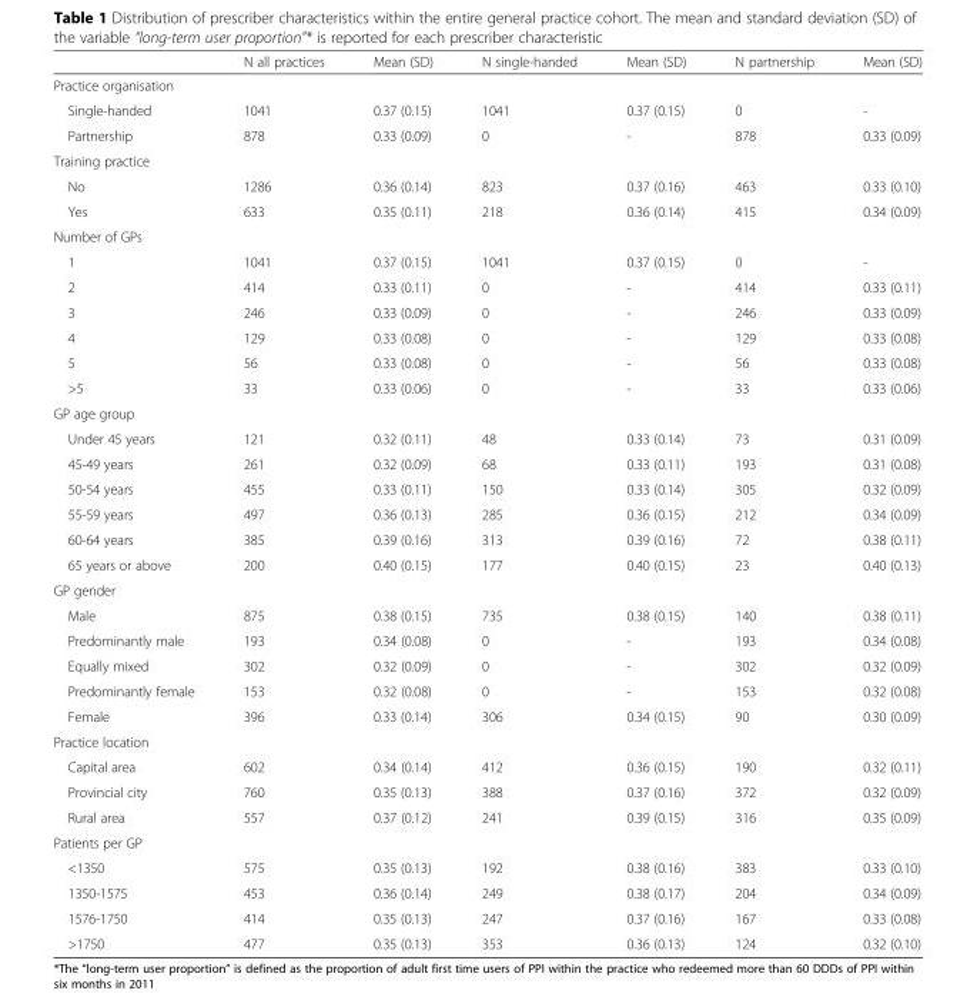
<table><thead><tr><td></td><td>N all practices</td><td>Mean (SD)</td><td>N single-handed</td><td>Mean (SD)</td><td>N partnership</td><td>Mean (SD)</td></tr></thead><tbody><tr><td colspan="7">Practice organisation</td></tr><tr><td>Single-handed</td><td>1041</td><td>0.37 (0.15)</td><td>1041</td><td>0.37 (0.15)</td><td>0</td><td>-</td></tr><tr><td>Partnership</td><td>878</td><td>0.33 (0.09)</td><td>0</td><td>-</td><td>878</td><td>0.33 (0.09)</td></tr><tr><td colspan="7">Training practice</td></tr><tr><td>No</td><td>1286</td><td>0.36 (0.14)</td><td>823</td><td>0.37 (0.16)</td><td>463</td><td>0.33 (0.10)</td></tr><tr><td>Yes</td><td>633</td><td>0.35 (0.11)</td><td>218</td><td>0.36 (0.14)</td><td>415</td><td>0.34 (0.09)</td></tr><tr><td colspan="7">Number of GPs</td></tr><tr><td>1</td><td>1041</td><td>0.37 (0.15)</td><td>1041</td><td>0.37 (0.15)</td><td>0</td><td>-</td></tr><tr><td>2</td><td>414</td><td>0.33 (0.11)</td><td>0</td><td>-</td><td>414</td><td>0.33 (0.11)</td></tr><tr><td>3</td><td>246</td><td>0.33 (0.09)</td><td>0</td><td>-</td><td>246</td><td>0.33 (0.09)</td></tr><tr><td>4</td><td>129</td><td>0.33 (0.08)</td><td>0</td><td>-</td><td>129</td><td>0.33 (0.08)</td></tr><tr><td>5</td><td>56</td><td>0.33 (0.08)</td><td>0</td><td>-</td><td>56</td><td>0.33 (0.08)</td></tr><tr><td>&gt;5</td><td>33</td><td>0.33 (0.06)</td><td>0</td><td>-</td><td>33</td><td>0.33 (0.06)</td></tr><tr><td colspan="7">GP age group</td></tr><tr><td>Under 45 years</td><td>121</td><td>0.32 (0.11)</td><td>48</td><td>0.33 (0.14)</td><td>73</td><td>0.31 (0.09)</td></tr><tr><td>45-49 years</td><td>261</td><td>0.32 (0.09)</td><td>68</td><td>0.33 (0.11)</td><td>193</td><td>0.31 (0.08)</td></tr><tr><td>50-54 years</td><td>455</td><td>0.33 (0.11)</td><td>150</td><td>0.33 (0.14)</td><td>305</td><td>0.32 (0.09)</td></tr><tr><td>55-59 years</td><td>497</td><td>0.36 (0.13)</td><td>285</td><td>0.36 (0.15)</td><td>212</td><td>0.34 (0.09)</td></tr><tr><td>60-64 years</td><td>385</td><td>0.39 (0.16)</td><td>313</td><td>0.39 (0.16)</td><td>72</td><td>0.38 (0.11)</td></tr><tr><td>65 years or above</td><td>200</td><td>0.40 (0.15)</td><td>177</td><td>0.40 (0.15)</td><td>23</td><td>0.40 (0.13)</td></tr><tr><td colspan="7">GP gender</td></tr><tr><td>Male</td><td>875</td><td>0.38 (0.15)</td><td>735</td><td>0.38 (0.15)</td><td>140</td><td>0.38 (0.11)</td></tr><tr><td>Predominantly male</td><td>193</td><td>0.34 (0.08)</td><td>0</td><td>-</td><td>193</td><td>0.34 (0.08)</td></tr><tr><td>Equally mixed</td><td>302</td><td>0.32 (0.09)</td><td>0</td><td>-</td><td>302</td><td>0.32 (0.09)</td></tr><tr><td>Predominantly female</td><td>153</td><td>0.32 (0.08)</td><td>0</td><td>-</td><td>153</td><td>0.32 (0.08)</td></tr><tr><td>Female</td><td>396</td><td>0.33 (0.14)</td><td>306</td><td>0.34 (0.15)</td><td>90</td><td>0.30 (0.09)</td></tr><tr><td colspan="7">Practice location</td></tr><tr><td>Capital area</td><td>602</td><td>0.34 (0.14)</td><td>412</td><td>0.36 (0.15)</td><td>190</td><td>0.32 (0.11)</td></tr><tr><td>Provincial city</td><td>760</td><td>0.35 (0.13)</td><td>388</td><td>0.37 (0.16)</td><td>372</td><td>0.32 (0.09)</td></tr><tr><td>Rural area</td><td>557</td><td>0.37 (0.12)</td><td>241</td><td>0.39 (0.15)</td><td>316</td><td>0.35 (0.09)</td></tr><tr><td colspan="7">Patients per GP</td></tr><tr><td>&lt;1350</td><td>575</td><td>0.35 (0.13)</td><td>192</td><td>0.38 (0.16)</td><td>383</td><td>0.33 (0.10)</td></tr><tr><td>1350-1575</td><td>453</td><td>0.36 (0.14)</td><td>249</td><td>0.38 (0.17)</td><td>204</td><td>0.34 (0.09)</td></tr><tr><td>1576-1750</td><td>414</td><td>0.35 (0.13)</td><td>247</td><td>0.37 (0.16)</td><td>167</td><td>0.33 (0.08)</td></tr><tr><td>&gt;1750</td><td>477</td><td>0.35 (0.13)</td><td>353</td><td>0.36 (0.13)</td><td>124</td><td>0.32 (0.10)</td></tr></tbody></table>